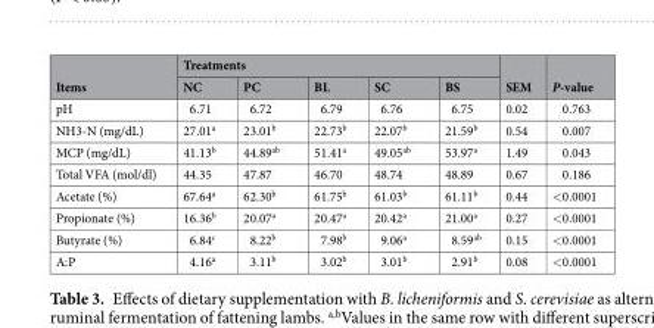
<table><thead><tr><td rowspan="2">Items</td><td colspan="5">Treatments</td><td rowspan="2">SEM</td><td rowspan="2">P-value</td></tr><tr><td>NC</td><td>PC</td><td>BL</td><td>SC</td><td>BS</td></tr></thead><tbody><tr><td>pH</td><td>6.71</td><td>6.72</td><td>6.79</td><td>6.76</td><td>6.75</td><td>0.02</td><td>0.763</td></tr><tr><td>NH3-N (mg/dL)</td><td>27.01<sup>a</sup></td><td>23.01<sup>b</sup></td><td>22.73<sup>b</sup></td><td>22.07<sup>b</sup></td><td>21.59<sup>b</sup></td><td>0.54</td><td>0.007</td></tr><tr><td>MCP (mg/dL)</td><td>41.13<sup>b</sup></td><td>44.89<sup>ab</sup></td><td>51.41<sup>a</sup></td><td>49.05<sup>ab</sup></td><td>53.97<sup>a</sup></td><td>1.49</td><td>0.043</td></tr><tr><td>Total VFA (mol/dl)</td><td>44.35</td><td>47.87</td><td>46.70</td><td>48.74</td><td>48.89</td><td>0.67</td><td>0.186</td></tr><tr><td>Acetate (%)</td><td>67.64<sup>a</sup></td><td>62.30<sup>b</sup></td><td>61.75<sup>b</sup></td><td>61.03<sup>b</sup></td><td>61.11<sup>b</sup></td><td>0.44</td><td>&lt;0.0001</td></tr><tr><td>Propionate (%)</td><td>16.36<sup>b</sup></td><td>20.07<sup>a</sup></td><td>20.47<sup>a</sup></td><td>20.42<sup>a</sup></td><td>21.00<sup>a</sup></td><td>0.27</td><td>&lt;0.0001</td></tr><tr><td>Butyrate (%)</td><td>6.84<sup>c</sup></td><td>8.22<sup>b</sup></td><td>7.98<sup>b</sup></td><td>9.06<sup>a</sup></td><td>8.59<sup>ab</sup></td><td>0.15</td><td>&lt;0.0001</td></tr><tr><td>A:P</td><td>4.16<sup>a</sup></td><td>3.11<sup>b</sup></td><td>3.02<sup>b</sup></td><td>3.01<sup>b</sup></td><td>2.91<sup>b</sup></td><td>0.08</td><td>&lt;0.0001</td></tr></tbody></table>